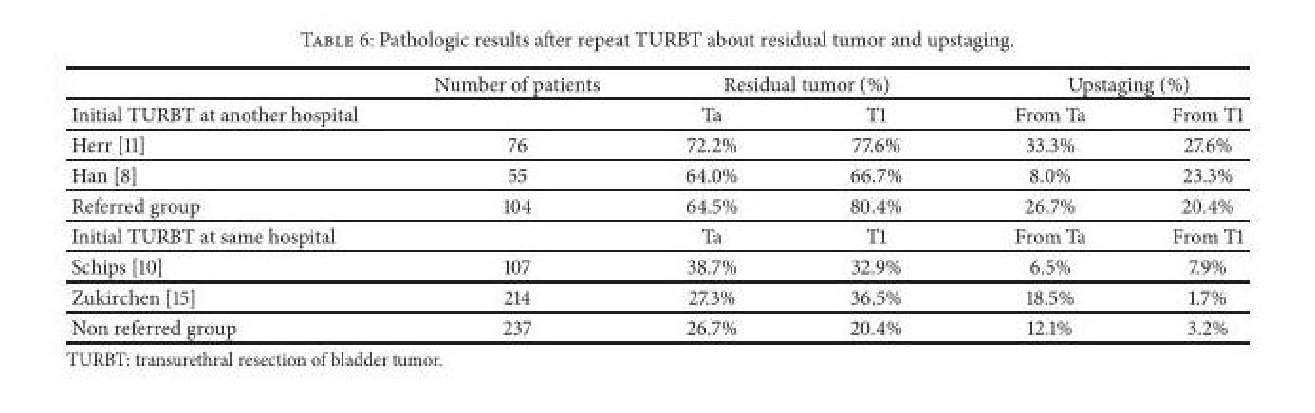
<table><thead><tr><td rowspan="2">Initial TURBT at another hospital</td><td rowspan="2">Number of patients</td><td colspan="2">Residual tumor (%)</td><td colspan="2">Upstaging (%)</td></tr><tr><td>Ta</td><td>T1</td><td>From Ta</td><td>From T1</td></tr></thead><tbody><tr><td>Herr [11]</td><td>76</td><td>72.2%</td><td>77.6%</td><td>33.3%</td><td>27.6%</td></tr><tr><td>Han [8]</td><td>55</td><td>64.0%</td><td>66.7%</td><td>8.0%</td><td>23.3%</td></tr><tr><td>Referred group</td><td>104</td><td>64.5%</td><td>80.4%</td><td>26.7%</td><td>20.4%</td></tr><tr><td>Initial TURBT at same hospital</td><td></td><td>Ta</td><td>T1</td><td>From Ta</td><td>From T1</td></tr><tr><td>Schips [10]</td><td>107</td><td>38.7%</td><td>32.9%</td><td>6.5%</td><td>7.9%</td></tr><tr><td>Zukirchen [15]</td><td>214</td><td>27.3%</td><td>36.5%</td><td>18.5%</td><td>1.7%</td></tr><tr><td>Non referred group</td><td>237</td><td>26.7%</td><td>20.4%</td><td>12.1%</td><td>3.2%</td></tr></tbody></table>